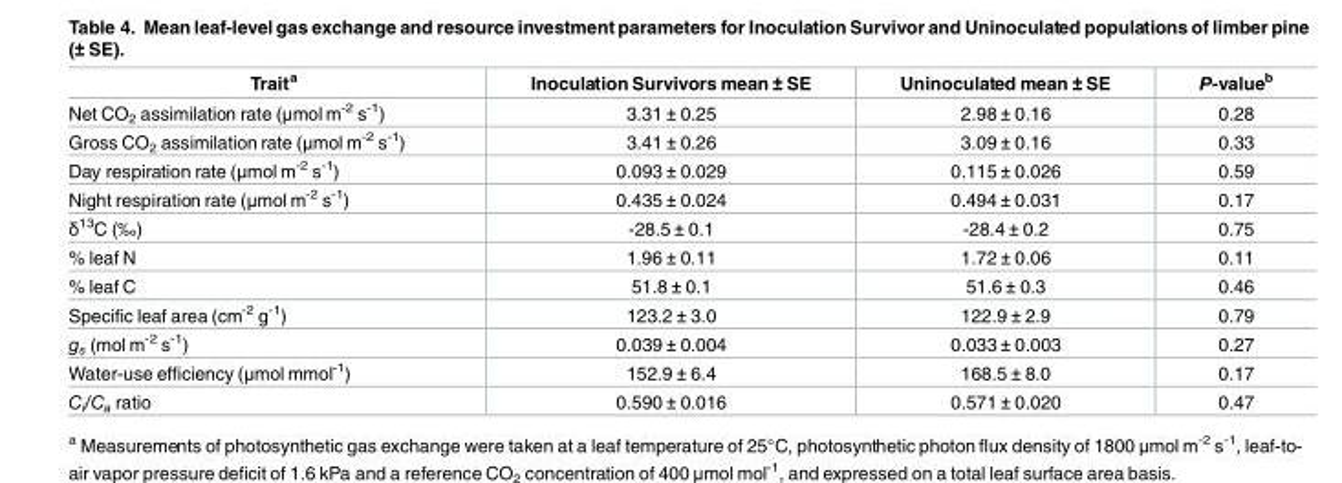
<table><thead><tr><td>Trait<sup>a</sup></td><td>Inoculation Survivors mean ± SE</td><td>Uninoculated mean ± SE</td><td>P-value<sup>b</sup></td></tr></thead><tbody><tr><td>Net CO<sub>2</sub> assimilation rate (μmol m<sup>-2</sup> s<sup>-1</sup>)</td><td>3.31 ± 0.25</td><td>2.98 ± 0.16</td><td>0.28</td></tr><tr><td>Gross CO<sub>2</sub> assimilation rate (μmol m<sup>-2</sup> s<sup>-1</sup>)</td><td>3.41 ± 0.26</td><td>3.09 ± 0.16</td><td>0.33</td></tr><tr><td>Day respiration rate (μmol m<sup>-2</sup> s<sup>-1</sup>)</td><td>0.093 ± 0.029</td><td>0.115 ± 0.026</td><td>0.59</td></tr><tr><td>Night respiration rate (μmol m<sup>-2</sup> s<sup>-1</sup>)</td><td>0.435 ± 0.024</td><td>0.494 ± 0.031</td><td>0.17</td></tr><tr><td>δ<sup>13</sup>C (‰)</td><td>-28.5 ± 0.1</td><td>-28.4 ± 0.2</td><td>0.75</td></tr><tr><td>% leaf N</td><td>1.96 ± 0.11</td><td>1.72 ± 0.06</td><td>0.11</td></tr><tr><td>% leaf C</td><td>51.8 ± 0.1</td><td>51.6 ± 0.3</td><td>0.46</td></tr><tr><td>Specific leaf area (cm<sup>-2</sup> g<sup>-1</sup>)</td><td>123.2 ± 3.0</td><td>122.9 ± 2.9</td><td>0.79</td></tr><tr><td>g<sub>s</sub> (mol m<sup>-2</sup> s<sup>-1</sup>)</td><td>0.039 ± 0.004</td><td>0.033 ± 0.003</td><td>0.27</td></tr><tr><td>Water-use efficiency (μmol mmol<sup>-1</sup>)</td><td>152.9 ± 6.4</td><td>168.5 ± 8.0</td><td>0.17</td></tr><tr><td>C<sub>i</sub>/C<sub>a</sub> ratio</td><td>0.590 ± 0.016</td><td>0.571 ± 0.020</td><td>0.47</td></tr></tbody></table>